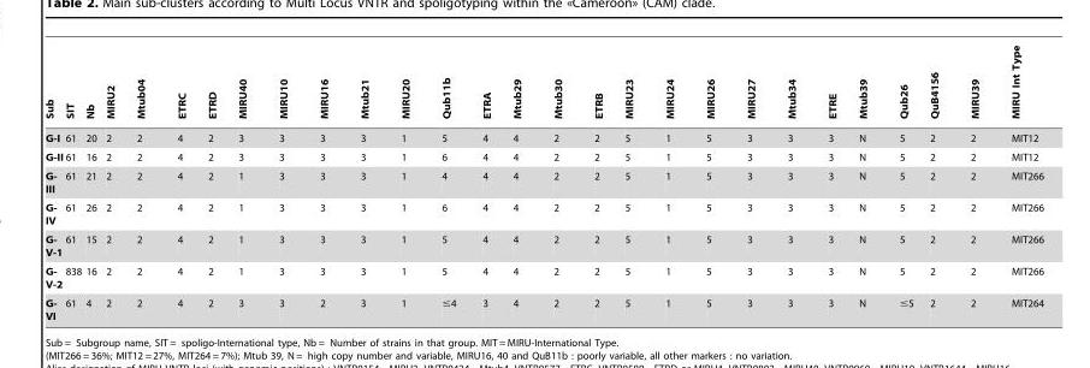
<table><thead><tr><td>Sub</td><td>SIT</td><td>Nb</td><td>MIRU2</td><td>Mtub04</td><td>ETRC</td><td>ETRD</td><td>MIRU40</td><td>MIRU10</td><td>MIRU16</td><td>Mtub21</td><td>MIRU20</td><td>Qub11b</td><td>ETRA</td><td>Mtub29</td><td>Mtub30</td><td>ETRB</td><td>MIRU23</td><td>MIRU24</td><td>MIRU26</td><td>MIRU27</td><td>Mtub34</td><td>ETRE</td><td>Mtub39</td><td>Qub26</td><td>QuB4156</td><td>MIRU39</td><td>MIRU Int Type</td></tr></thead><tbody><tr><td>G-I</td><td>61</td><td>20</td><td>2</td><td>2</td><td>4</td><td>2</td><td>3</td><td>3</td><td>3</td><td>3</td><td>1</td><td>5</td><td>4</td><td>4</td><td>2</td><td>2</td><td>5</td><td>1</td><td>5</td><td>3</td><td>3</td><td>3</td><td>N</td><td>5</td><td>2</td><td>2</td><td>MIT12</td></tr><tr><td>G-II</td><td>61</td><td>16</td><td>2</td><td>2</td><td>4</td><td>2</td><td>3</td><td>3</td><td>3</td><td>3</td><td>1</td><td>6</td><td>4</td><td>4</td><td>2</td><td>2</td><td>5</td><td>1</td><td>5</td><td>3</td><td>3</td><td>3</td><td>N</td><td>5</td><td>2</td><td>2</td><td>MIT12</td></tr><tr><td>G- III</td><td>61</td><td>21</td><td>2</td><td>2</td><td>4</td><td>2</td><td>1</td><td>3</td><td>3</td><td>3</td><td>1</td><td>4</td><td>4</td><td>4</td><td>2</td><td>2</td><td>5</td><td>1</td><td>5</td><td>3</td><td>3</td><td>3</td><td>N</td><td>5</td><td>2</td><td>2</td><td>MIT266</td></tr><tr><td>G- IV</td><td>61</td><td>26</td><td>2</td><td>2</td><td>4</td><td>2</td><td>1</td><td>3</td><td>3</td><td>3</td><td>1</td><td>6</td><td>4</td><td>4</td><td>2</td><td>2</td><td>5</td><td>1</td><td>5</td><td>3</td><td>3</td><td>3</td><td>N</td><td>5</td><td>2</td><td>2</td><td>MIT266</td></tr><tr><td>G- V-1</td><td>61</td><td>15</td><td>2</td><td>2</td><td>4</td><td>2</td><td>1</td><td>3</td><td>3</td><td>3</td><td>1</td><td>5</td><td>4</td><td>4</td><td>2</td><td>2</td><td>5</td><td>1</td><td>5</td><td>3</td><td>3</td><td>3</td><td>N</td><td>5</td><td>2</td><td>2</td><td>MIT266</td></tr><tr><td>G- V-2</td><td>838</td><td>16</td><td>2</td><td>2</td><td>4</td><td>2</td><td>1</td><td>3</td><td>3</td><td>3</td><td>1</td><td>5</td><td>4</td><td>4</td><td>2</td><td>2</td><td>5</td><td>1</td><td>5</td><td>3</td><td>3</td><td>3</td><td>N</td><td>5</td><td>2</td><td>2</td><td>MIT266</td></tr><tr><td>G- VI</td><td>61</td><td>4</td><td>2</td><td>2</td><td>4</td><td>2</td><td>3</td><td>3</td><td>2</td><td>3</td><td>1</td><td>≤4</td><td>3</td><td>4</td><td>2</td><td>2</td><td>5</td><td>1</td><td>5</td><td>3</td><td>3</td><td>3</td><td>N</td><td>≤5</td><td>2</td><td>2</td><td>MIT264</td></tr></tbody></table>